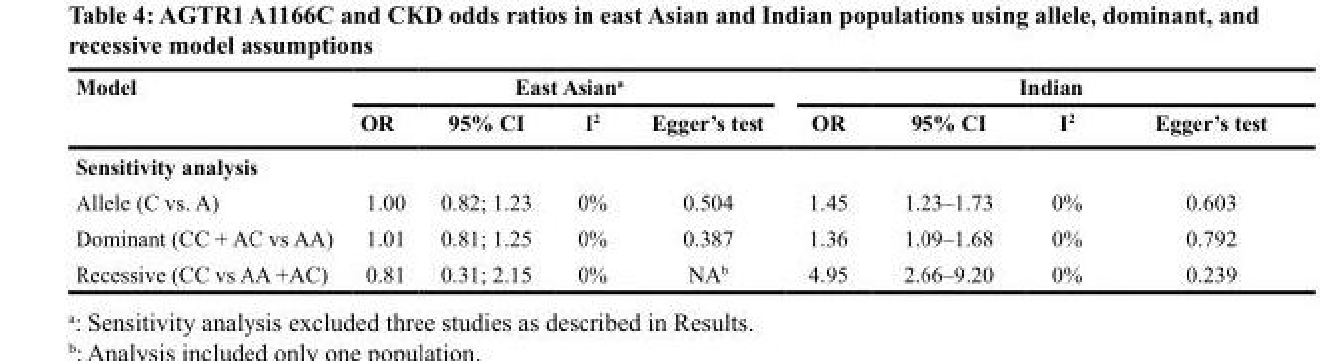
<table><thead><tr><td rowspan="2">Model</td><td colspan="4">East Asian<sup>a</sup></td><td colspan="4">Indian</td></tr><tr><td>OR</td><td>95% CI</td><td>I<sup>2</sup></td><td>Egger’s test</td><td>OR</td><td>95% CI</td><td>I<sup>2</sup></td><td>Egger’s test</td></tr></thead><tbody><tr><td colspan="9">Sensitivity analysis</td></tr><tr><td>Allele (C vs. A)</td><td>1.00</td><td>0.82; 1.23</td><td>0%</td><td>0.504</td><td>1.45</td><td>1.23–1.73</td><td>0%</td><td>0.603</td></tr><tr><td>Dominant (CC + AC vs AA)</td><td>1.01</td><td>0.81; 1.25</td><td>0%</td><td>0.387</td><td>1.36</td><td>1.09–1.68</td><td>0%</td><td>0.792</td></tr><tr><td>Recessive (CC vs AA +AC)</td><td>0.81</td><td>0.31; 2.15</td><td>0%</td><td>NA<sup>b</sup></td><td>4.95</td><td>2.66–9.20</td><td>0%</td><td>0.239</td></tr></tbody></table>